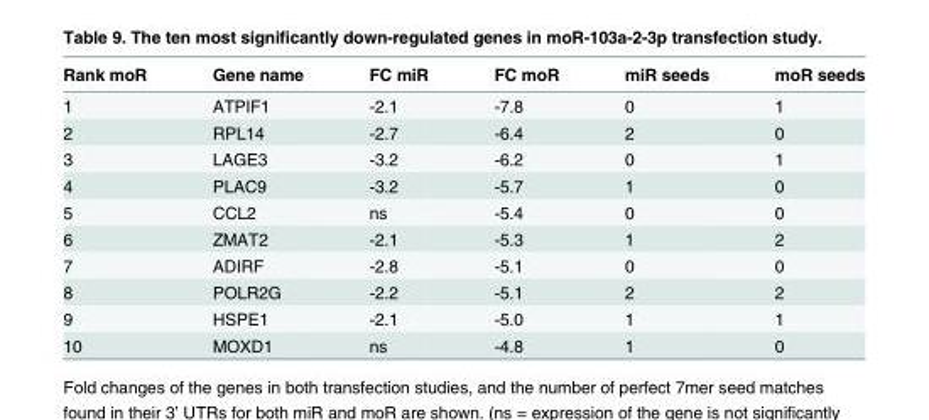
<table><thead><tr><td>Rank moR</td><td>Gene name</td><td>FC miR</td><td>FC moR</td><td>miR seeds</td><td>moR seeds</td></tr></thead><tbody><tr><td>1</td><td>ATPIF1</td><td>-2.1</td><td>-7.8</td><td>0</td><td>1</td></tr><tr><td>2</td><td>RPL14</td><td>-2.7</td><td>-6.4</td><td>2</td><td>0</td></tr><tr><td>3</td><td>LAGE3</td><td>-3.2</td><td>-6.2</td><td>0</td><td>1</td></tr><tr><td>4</td><td>PLAC9</td><td>-3.2</td><td>-5.7</td><td>1</td><td>0</td></tr><tr><td>5</td><td>CCL2</td><td>ns</td><td>-5.4</td><td>0</td><td>0</td></tr><tr><td>6</td><td>ZMAT2</td><td>-2.1</td><td>-5.3</td><td>1</td><td>2</td></tr><tr><td>7</td><td>ADIRF</td><td>-2.8</td><td>-5.1</td><td>0</td><td>0</td></tr><tr><td>8</td><td>POLR2G</td><td>-2.2</td><td>-5.1</td><td>2</td><td>2</td></tr><tr><td>9</td><td>HSPE1</td><td>-2.1</td><td>-5.0</td><td>1</td><td>1</td></tr><tr><td>10</td><td>MOXD1</td><td>ns</td><td>-4.8</td><td>1</td><td>0</td></tr></tbody></table>